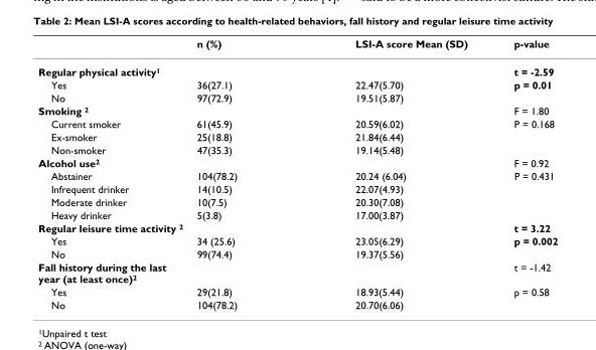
<table><thead><tr><td></td><td>n (%)</td><td>LSI-A score Mean (SD)</td><td>p-value</td></tr></thead><tbody><tr><td>Regular physical activity<sup>1</sup></td><td></td><td></td><td>t = -2.59</td></tr><tr><td>Yes</td><td>36(27.1)</td><td>22.47(5.70)</td><td>p = 0.01</td></tr><tr><td>No</td><td>97(72.9)</td><td>19.51(5.87)</td><td></td></tr><tr><td>Smoking <sup>2</sup></td><td></td><td></td><td>F = 1.80</td></tr><tr><td>Current smoker</td><td>61(45.9)</td><td>20.59(6.02)</td><td>P = 0.168</td></tr><tr><td>Ex-smoker</td><td>25(18.8)</td><td>21.84(6.44)</td><td></td></tr><tr><td>Non-smoker</td><td>47(35.3)</td><td>19.14(5.48)</td><td></td></tr><tr><td>Alcohol use<sup>2</sup></td><td></td><td></td><td>F = 0.92</td></tr><tr><td>Abstainer</td><td>104(78.2)</td><td>20.24 (6.04)</td><td>P = 0.431</td></tr><tr><td>Infrequent drinker</td><td>14(10.5)</td><td>22.07(4.93)</td><td></td></tr><tr><td>Moderate drinker</td><td>10(7.5)</td><td>20.30(7.08)</td><td></td></tr><tr><td>Heavy drinker</td><td>5(3.8)</td><td>17.00(3.87)</td><td></td></tr><tr><td>Regular leisure time activity <sup>2</sup></td><td></td><td></td><td>t = 3.22</td></tr><tr><td>Yes</td><td>34 (25.6)</td><td>23.05(6.29)</td><td>p = 0.002</td></tr><tr><td>No</td><td>99(74.4)</td><td>19.37(5.56)</td><td></td></tr><tr><td>Fall history during the last year (at least once)<sup>2</sup></td><td></td><td></td><td>t = -1.42</td></tr><tr><td>Yes</td><td>29(21.8)</td><td>18.93(5.44)</td><td>p = 0.58</td></tr><tr><td>No</td><td>104(78.2)</td><td>20.70(6.06)</td><td></td></tr></tbody></table>